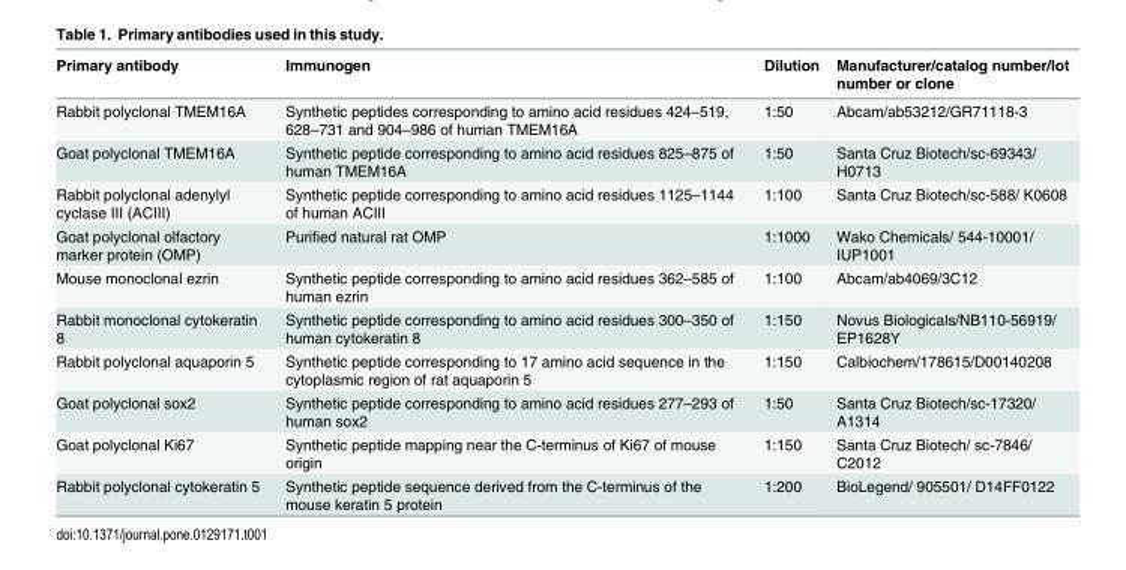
<table><thead><tr><td>Primary antibody</td><td>Immunogen</td><td>Dilution</td><td>Manufacturer/catalog number/lot number or clone</td></tr></thead><tbody><tr><td>Rabbit polyclonal TMEM16A</td><td>Synthetic peptides corresponding to amino acid residues 424–519, 628–731 and 904–986 of human TMEM16A</td><td>1:50</td><td>Abcam/ab53212/GR71118-3</td></tr><tr><td>Goat polyclonal TMEM16A</td><td>Synthetic peptide corresponding to amino acid residues 825–875 of human TMEM16A</td><td>1:50</td><td>Santa Cruz Biotech/sc-69343/ H0713</td></tr><tr><td>Rabbit polyclonal adenylyl cyclase III (ACIII)</td><td>Synthetic peptide corresponding to amino acid residues 1125–1144 of human ACIII</td><td>1:100</td><td>Santa Cruz Biotech/sc-588/ K0608</td></tr><tr><td>Goat polyclonal olfactory marker protein (OMP)</td><td>Purified natural rat OMP</td><td>1:1000</td><td>Wako Chemicals/ 544-10001/ IUP1001</td></tr><tr><td>Mouse monoclonal ezrin</td><td>Synthetic peptide corresponding to amino acid residues 362–585 of human ezrin</td><td>1:100</td><td>Abcam/ab4069/3C12</td></tr><tr><td>Rabbit monoclonal cytokeratin 8</td><td>Synthetic peptide corresponding to amino acid residues 300–350 of human cytokeratin 8</td><td>1:150</td><td>Novus Biologicals/NB110-56919/ EP1628Y</td></tr><tr><td>Rabbit polyclonal aquaporin 5</td><td>Synthetic peptide corresponding to 17 amino acid sequence in the cytoplasmic region of rat aquaporin 5</td><td>1:150</td><td>Calbiochem/178615/D00140208</td></tr><tr><td>Goat polyclonal sox2</td><td>Synthetic peptide corresponding to amino acid residues 277–293 of human sox2</td><td>1:50</td><td>Santa Cruz Biotech/sc-17320/ A1314</td></tr><tr><td>Goat polyclonal Ki67</td><td>Synthetic peptide mapping near the C-terminus of Ki67 of mouse origin</td><td>1:150</td><td>Santa Cruz Biotech/ sc-7846/ C2012</td></tr><tr><td>Rabbit polyclonal cytokeratin 5</td><td>Synthetic peptide sequence derived from the C-terminus of the mouse keratin 5 protein</td><td>1:200</td><td>BioLegend/ 905501/ D14FF0122</td></tr></tbody></table>